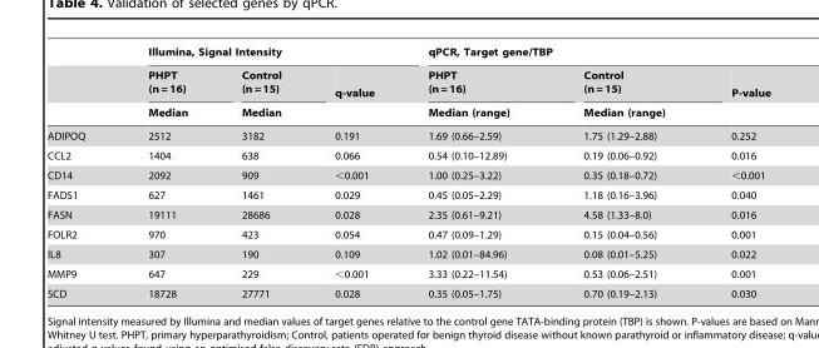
<table><thead><tr><td rowspan="3"></td><td colspan="3">Illumina, Signal Intensity</td><td colspan="3">qPCR, Target gene/TBP</td></tr><tr><td rowspan="2">PHPT (n = 16) Median</td><td rowspan="2">Control (n = 15) Median</td><td rowspan="2">q-value</td><td rowspan="2">PHPT (n = 16) Median (range)</td><td rowspan="2">Control (n = 15) Median (range)</td><td rowspan="2">P-value</td></tr><tr></tr></thead><tbody><tr><td>ADIPOQ</td><td>2512</td><td>3182</td><td>0.191</td><td>1.69 (0.66–2.59)</td><td>1.75 (1.29–2.88)</td><td>0.252</td></tr><tr><td>CCL2</td><td>1404</td><td>638</td><td>0.066</td><td>0.54 (0.10–12.89)</td><td>0.19 (0.06–0.92)</td><td>0.016</td></tr><tr><td>CD14</td><td>2092</td><td>909</td><td>&lt;0.001</td><td>1.00 (0.25–3.22)</td><td>0.35 (0.18–0.72)</td><td>&lt;0.001</td></tr><tr><td>FADS1</td><td>627</td><td>1461</td><td>0.029</td><td>0.45 (0.05–2.29)</td><td>1.18 (0.16–3.96)</td><td>0.040</td></tr><tr><td>FASN</td><td>19111</td><td>28686</td><td>0.028</td><td>2.35 (0.61–9.21)</td><td>4.58 (1.33–8.0)</td><td>0.016</td></tr><tr><td>FOLR2</td><td>970</td><td>423</td><td>0.054</td><td>0.47 (0.09–1.29)</td><td>0.15 (0.04–0.56)</td><td>0.001</td></tr><tr><td>IL8</td><td>307</td><td>190</td><td>0.109</td><td>1.02 (0.01–84.96)</td><td>0.08 (0.01–5.25)</td><td>0.022</td></tr><tr><td>MMP9</td><td>647</td><td>229</td><td>&lt;0.001</td><td>3.33 (0.22–11.54)</td><td>0.53 (0.06–2.51)</td><td>0.001</td></tr><tr><td>SCD</td><td>18728</td><td>27771</td><td>0.028</td><td>0.35 (0.05–1.75)</td><td>0.70 (0.19–2.13)</td><td>0.030</td></tr></tbody></table>